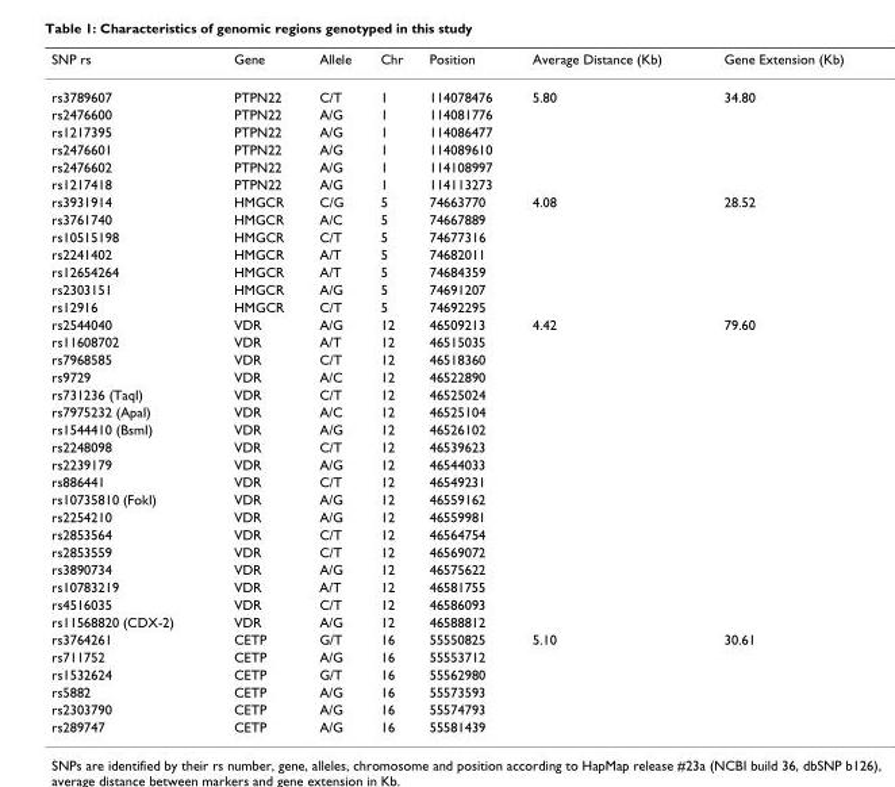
<table><thead><tr><td>SNP rs</td><td>Gene</td><td>Allele</td><td>Chr</td><td>Position</td><td>Average Distance (Kb)</td><td>Gene Extension (Kb)</td></tr></thead><tbody><tr><td>rs3789607</td><td>PTPN22</td><td>C/T</td><td>1</td><td>114078476</td><td>5.80</td><td>34.80</td></tr><tr><td>rs2476600</td><td>PTPN22</td><td>A/G</td><td>1</td><td>114081776</td><td></td><td></td></tr><tr><td>rs1217395</td><td>PTPN22</td><td>A/G</td><td>1</td><td>114086477</td><td></td><td></td></tr><tr><td>rs2476601</td><td>PTPN22</td><td>A/G</td><td>1</td><td>114089610</td><td></td><td></td></tr><tr><td>rs2476602</td><td>PTPN22</td><td>A/G</td><td>1</td><td>114108997</td><td></td><td></td></tr><tr><td>rs1217418</td><td>PTPN22</td><td>A/G</td><td>1</td><td>114113273</td><td></td><td></td></tr><tr><td>rs3931914</td><td>HMGCR</td><td>C/G</td><td>5</td><td>74663770</td><td>4.08</td><td>28.52</td></tr><tr><td>rs3761740</td><td>HMGCR</td><td>A/C</td><td>5</td><td>74667889</td><td></td><td></td></tr><tr><td>rs10515198</td><td>HMGCR</td><td>C/T</td><td>5</td><td>74677316</td><td></td><td></td></tr><tr><td>rs2241402</td><td>HMGCR</td><td>A/T</td><td>5</td><td>74682011</td><td></td><td></td></tr><tr><td>rs12654264</td><td>HMGCR</td><td>A/T</td><td>5</td><td>74684359</td><td></td><td></td></tr><tr><td>rs2303151</td><td>HMGCR</td><td>A/G</td><td>5</td><td>74691207</td><td></td><td></td></tr><tr><td>rs12916</td><td>HMGCR</td><td>C/T</td><td>5</td><td>74692295</td><td></td><td></td></tr><tr><td>rs2544040</td><td>VDR</td><td>A/G</td><td>12</td><td>46509213</td><td>4.42</td><td>79.60</td></tr><tr><td>rs11608702</td><td>VDR</td><td>A/T</td><td>12</td><td>46515035</td><td></td><td></td></tr><tr><td>rs7968585</td><td>VDR</td><td>C/T</td><td>12</td><td>46518360</td><td></td><td></td></tr><tr><td>rs9729</td><td>VDR</td><td>A/C</td><td>12</td><td>46522890</td><td></td><td></td></tr><tr><td>rs731236 (TaqI)</td><td>VDR</td><td>C/T</td><td>12</td><td>46525024</td><td></td><td></td></tr><tr><td>rs7975232 (ApaI)</td><td>VDR</td><td>A/C</td><td>12</td><td>46525104</td><td></td><td></td></tr><tr><td>rs1544410 (BsmI)</td><td>VDR</td><td>A/G</td><td>12</td><td>46526102</td><td></td><td></td></tr><tr><td>rs2248098</td><td>VDR</td><td>C/T</td><td>12</td><td>46539623</td><td></td><td></td></tr><tr><td>rs2239179</td><td>VDR</td><td>A/G</td><td>12</td><td>46544033</td><td></td><td></td></tr><tr><td>rs886441</td><td>VDR</td><td>C/T</td><td>12</td><td>46549231</td><td></td><td></td></tr><tr><td>rs10735810 (FokI)</td><td>VDR</td><td>A/G</td><td>12</td><td>46559162</td><td></td><td></td></tr><tr><td>rs2254210</td><td>VDR</td><td>A/G</td><td>12</td><td>46559981</td><td></td><td></td></tr><tr><td>rs2853564</td><td>VDR</td><td>C/T</td><td>12</td><td>46564754</td><td></td><td></td></tr><tr><td>rs2853559</td><td>VDR</td><td>C/T</td><td>12</td><td>46569072</td><td></td><td></td></tr><tr><td>rs3890734</td><td>VDR</td><td>A/G</td><td>12</td><td>46575622</td><td></td><td></td></tr><tr><td>rs10783219</td><td>VDR</td><td>A/T</td><td>12</td><td>46581755</td><td></td><td></td></tr><tr><td>rs4516035</td><td>VDR</td><td>C/T</td><td>12</td><td>46586093</td><td></td><td></td></tr><tr><td>rs11568820 (CDX-2)</td><td>VDR</td><td>A/G</td><td>12</td><td>46588812</td><td></td><td></td></tr><tr><td>rs3764261</td><td>CETP</td><td>G/T</td><td>16</td><td>55550825</td><td>5.10</td><td>30.61</td></tr><tr><td>rs711752</td><td>CETP</td><td>A/G</td><td>16</td><td>55553712</td><td></td><td></td></tr><tr><td>rs1532624</td><td>CETP</td><td>G/T</td><td>16</td><td>55562980</td><td></td><td></td></tr><tr><td>rs5882</td><td>CETP</td><td>A/G</td><td>16</td><td>55573593</td><td></td><td></td></tr><tr><td>rs2303790</td><td>CETP</td><td>A/G</td><td>16</td><td>55574793</td><td></td><td></td></tr><tr><td>rs289747</td><td>CETP</td><td>A/G</td><td>16</td><td>55581439</td><td></td><td></td></tr></tbody></table>